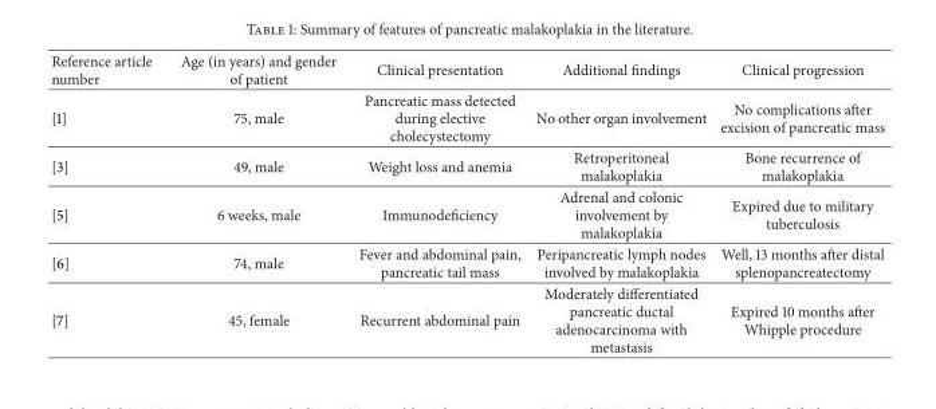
<table><thead><tr><td>Reference article number</td><td>Age (in years) and gender of patient</td><td>Clinical presentation</td><td>Additional findings</td><td>Clinical progression</td></tr></thead><tbody><tr><td>[1]</td><td>75, male</td><td>Pancreatic mass detected during elective cholecystectomy</td><td>No other organ involvement</td><td>No complications after excision of pancreatic mass</td></tr><tr><td>[3]</td><td>49, male</td><td>Weight loss and anemia</td><td>Retroperitoneal malakoplakia</td><td>Bone recurrence of malakoplakia</td></tr><tr><td>[5]</td><td>6 weeks, male</td><td>Immunodeficiency</td><td>Adrenal and colonic involvement by malakoplakia</td><td>Expired due to military tuberculosis</td></tr><tr><td>[6]</td><td>74, male</td><td>Fever and abdominal pain, pancreatic tail mass</td><td>Peripancreatic lymph nodes involved by malakoplakia</td><td>Well, 13 months after distal splenopancreatectomy</td></tr><tr><td>[7]</td><td>45, female</td><td>Recurrent abdominal pain</td><td>Moderately differentiated pancreatic ductal adenocarcinoma with metastasis</td><td>Expired 10 months after Whipple procedure</td></tr></tbody></table>